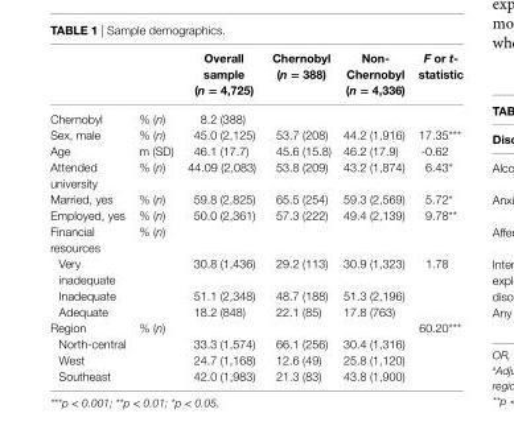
<table><thead><tr><td></td><td></td><td>Overall sample (n = 4,725)</td><td>chernobyl (n = 388)</td><td>non- chernobyl (n = 4,336)</td><td>F or t- statistic</td></tr></thead><tbody><tr><td>Chernobyl</td><td>% (n)</td><td>8.2 (388)</td><td></td><td></td><td></td></tr><tr><td>Sex, male</td><td>% (n)</td><td>45.0 (2,125)</td><td>53.7 (208)</td><td>44.2 (1,916)</td><td>17.35***</td></tr><tr><td>Age</td><td>m (SD)</td><td>46.1 (17.7)</td><td>45.6 (15.8)</td><td>46.2 (17.9)</td><td>-0.62</td></tr><tr><td>Attended university</td><td>% (n)</td><td>44.09 (2,083)</td><td>53.8 (209)</td><td>43.2 (1,874)</td><td>6.43*</td></tr><tr><td>Married, yes</td><td>% (n)</td><td>59.8 (2,825)</td><td>65.5 (254)</td><td>59.3 (2,569)</td><td>5.72*</td></tr><tr><td>Employed, yes</td><td>% (n)</td><td>50.0 (2,361)</td><td>57.3 (222)</td><td>49.4 (2,139)</td><td>9.78**</td></tr><tr><td>Financial resources</td><td>% (n)</td><td></td><td></td><td></td><td></td></tr><tr><td>Very inadequate</td><td></td><td>30.8 (1,436)</td><td>29.2 (113)</td><td>30.9 (1,323)</td><td rowspan="3">1.78</td></tr><tr><td>Inadequate</td><td></td><td>51.1 (2,348)</td><td>48.7 (188)</td><td>51.3 (2,196)</td></tr><tr><td>Adequate</td><td></td><td>18.2 (848)</td><td>22.1 (85)</td><td>17.8 (763)</td></tr><tr><td>Region</td><td>% (n)</td><td></td><td></td><td></td><td>60.20***</td></tr><tr><td>North-central</td><td></td><td>33.3 (1,574)</td><td>66.1 (256)</td><td>30.4 (1,316)</td><td></td></tr><tr><td>West</td><td></td><td>24.7 (1,168)</td><td>12.6 (49)</td><td>25.8 (1,120)</td><td></td></tr><tr><td>Southeast</td><td></td><td>42.0 (1,983)</td><td>21.3 (83)</td><td>43.8 (1,900)</td><td></td></tr></tbody></table>